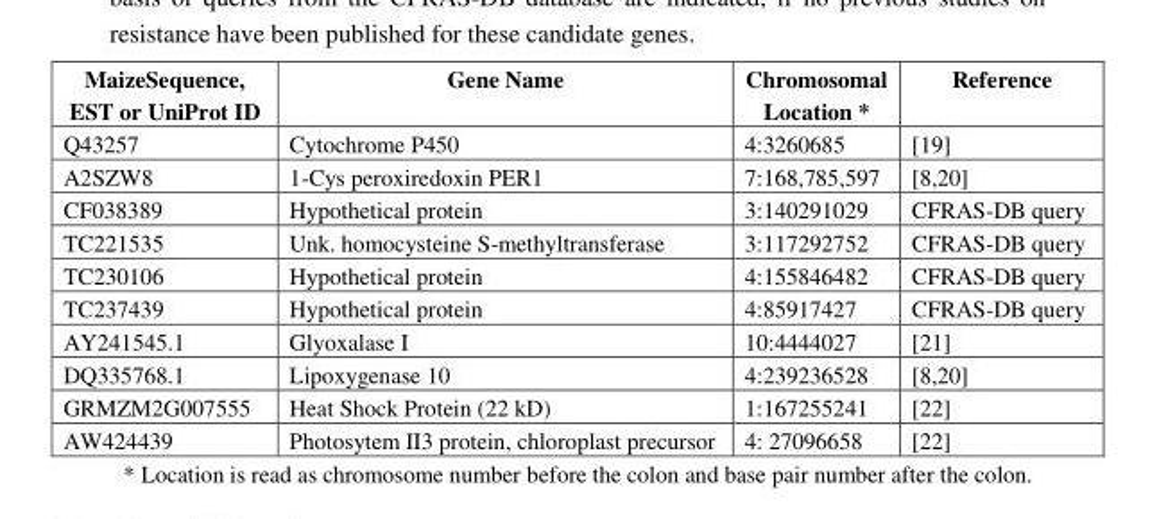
<table><thead><tr><td>MaizeSequence, EST or UniProt ID</td><td>Gene Name</td><td>Chromosomal Location *</td><td>Reference</td></tr></thead><tbody><tr><td>Q43257</td><td>Cytochrome P450</td><td>4:3260685</td><td>[19]</td></tr><tr><td>A2SZW8</td><td>1-Cys peroxiredoxin PER1</td><td>7:168,785,597</td><td>[8,20]</td></tr><tr><td>CF038389</td><td>Hypothetical protein</td><td>3:140291029</td><td>CFRAS-DB query</td></tr><tr><td>TC221535</td><td>Unk. homocysteine S-methyltransferase</td><td>3:117292752</td><td>CFRAS-DB query</td></tr><tr><td>TC230106</td><td>Hypothetical protein</td><td>4:155846482</td><td>CFRAS-DB query</td></tr><tr><td>TC237439</td><td>Hypothetical protein</td><td>4:85917427</td><td>CFRAS-DB query</td></tr><tr><td>AY241545.1</td><td>Glyoxalase I</td><td>10:4444027</td><td>[21]</td></tr><tr><td>DQ335768.1</td><td>Lipoxygenase 10</td><td>4:239236528</td><td>[8,20]</td></tr><tr><td>GRMZM2G007555</td><td>Heat Shock Protein (22 kD)</td><td>1:167255241</td><td>[22]</td></tr><tr><td>AW424439</td><td>Photosytem II3 protein, chloroplast precursor</td><td>4: 27096658</td><td>[22]</td></tr></tbody></table>